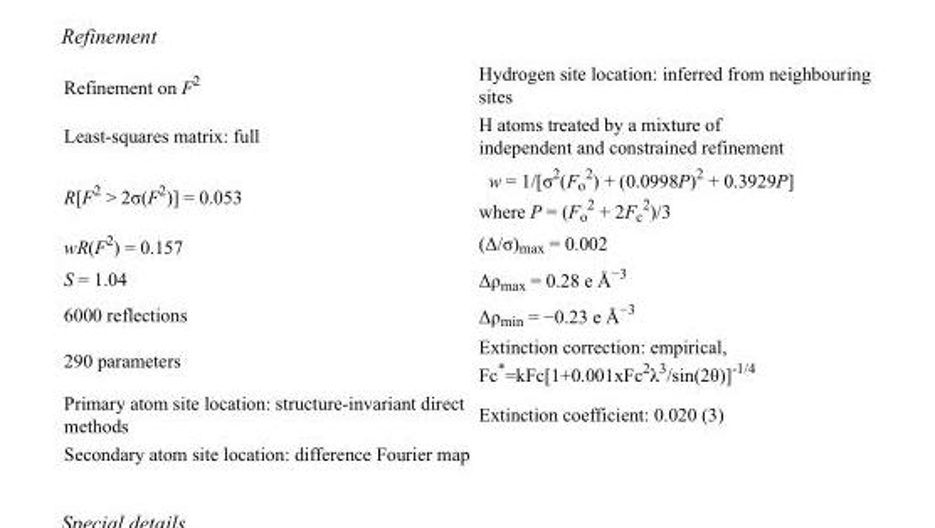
<table><tbody><tr><td>Refinement on F<sup>2</sup></td><td>Hydrogen site location: inferred from neighbouring sites</td></tr><tr><td>Least-squares matrix: full</td><td>H atoms treated by a mixture of independent and constrained refinement</td></tr><tr><td>R[F<sup>2</sup> &gt; 2σ(F<sup>2</sup>)] = 0.053</td><td>w = 1/[σ<sup>2</sup>(F<sub>o</sub> <sup>2</sup>) + (0.0998P)<sup>2</sup> + 0.3929P] where P = (F<sub>o</sub> <sup>2</sup> + 2F<sub>c</sub> <sup>2</sup>)/3</td></tr><tr><td>wR(F<sup>2</sup>) = 0.157</td><td>(Δ/σ)<sub>max</sub> = 0.002</td></tr><tr><td>S = 1.04</td><td>Δρ<sub>max</sub> = 0.28 e Å<sup>−3</sup></td></tr><tr><td>6000 reflections</td><td>Δρ<sub>min</sub> = −0.23 e Å<sup>−3</sup></td></tr><tr><td>290 parameters</td><td>Extinction correction: empirical, Fc*=kFc[1+0.001xFc<sup>2</sup>λ<sup>3</sup>/sin(2θ)]<sup>-1/4</sup></td></tr><tr><td>Primary atom site location: structure-invariant direct methods</td><td>Extinction coefficient: 0.020 (3)</td></tr><tr><td>Secondary atom site location: difference Fourier map</td><td></td></tr></tbody></table>